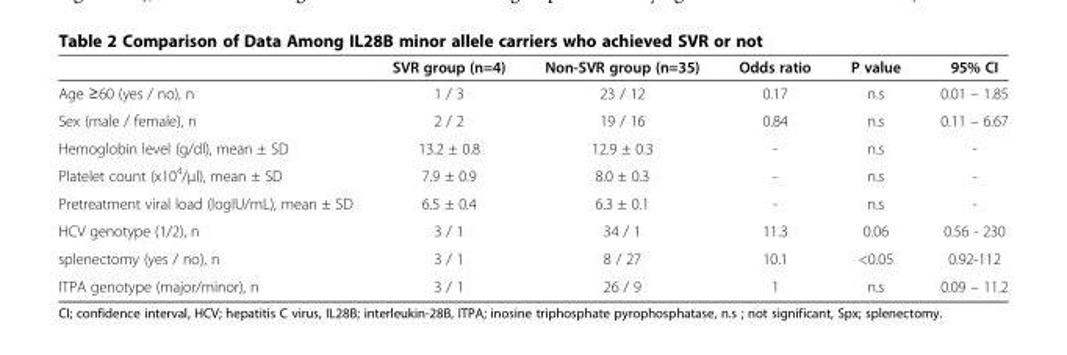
<table><thead><tr><td></td><td>SVR group (n=4)</td><td>Non-SVR group (n=35)</td><td>Odds ratio</td><td>P value</td><td>95% CI</td></tr></thead><tbody><tr><td>Age ≥60 (yes / no), n</td><td>1 / 3</td><td>23 / 12</td><td>0.17</td><td>n.s</td><td>0.01 – 1.85</td></tr><tr><td>Sex (male / female), n</td><td>2 / 2</td><td>19 / 16</td><td>0.84</td><td>n.s</td><td>0.11 – 6.67</td></tr><tr><td>Hemoglobin level (g/dl), mean ± SD</td><td>13.2 ± 0.8</td><td>12.9 ± 0.3</td><td>-</td><td>n.s</td><td>-</td></tr><tr><td>Platelet count (x10<sup>4</sup>/μl), mean ± SD</td><td>7.9 ± 0.9</td><td>8.0 ± 0.3</td><td>-</td><td>n.s</td><td>-</td></tr><tr><td>Pretreatment viral load (logIU/mL), mean ± SD</td><td>6.5 ± 0.4</td><td>6.3 ± 0.1</td><td>-</td><td>n.s</td><td>-</td></tr><tr><td>HCV genotype (1/2), n</td><td>3 / 1</td><td>34 / 1</td><td>11.3</td><td>0.06</td><td>0.56 - 230</td></tr><tr><td>splenectomy (yes / no), n</td><td>3 / 1</td><td>8 / 27</td><td>10.1</td><td>&lt;0.05</td><td>0.92-112</td></tr><tr><td>ITPA genotype (major/minor), n</td><td>3 / 1</td><td>26 / 9</td><td>1</td><td>n.s</td><td>0.09 – 11.2</td></tr></tbody></table>